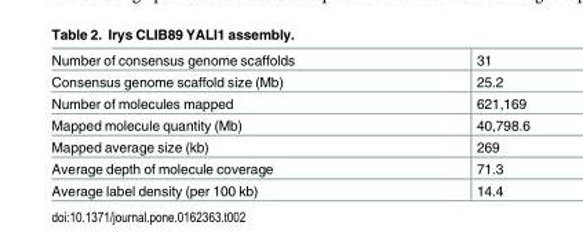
<table><tbody><tr><td>Number of consensus genome scaffolds</td><td>31</td></tr><tr><td>Consensus genome scaffold size (Mb)</td><td>25.2</td></tr><tr><td>Number of molecules mapped</td><td>621,169</td></tr><tr><td>Mapped molecule quantity (Mb)</td><td>40,798.6</td></tr><tr><td>Mapped average size (kb)</td><td>269</td></tr><tr><td>Average depth of molecule coverage</td><td>71.3</td></tr><tr><td>Average label density (per 100 kb)</td><td>14.4</td></tr></tbody></table>